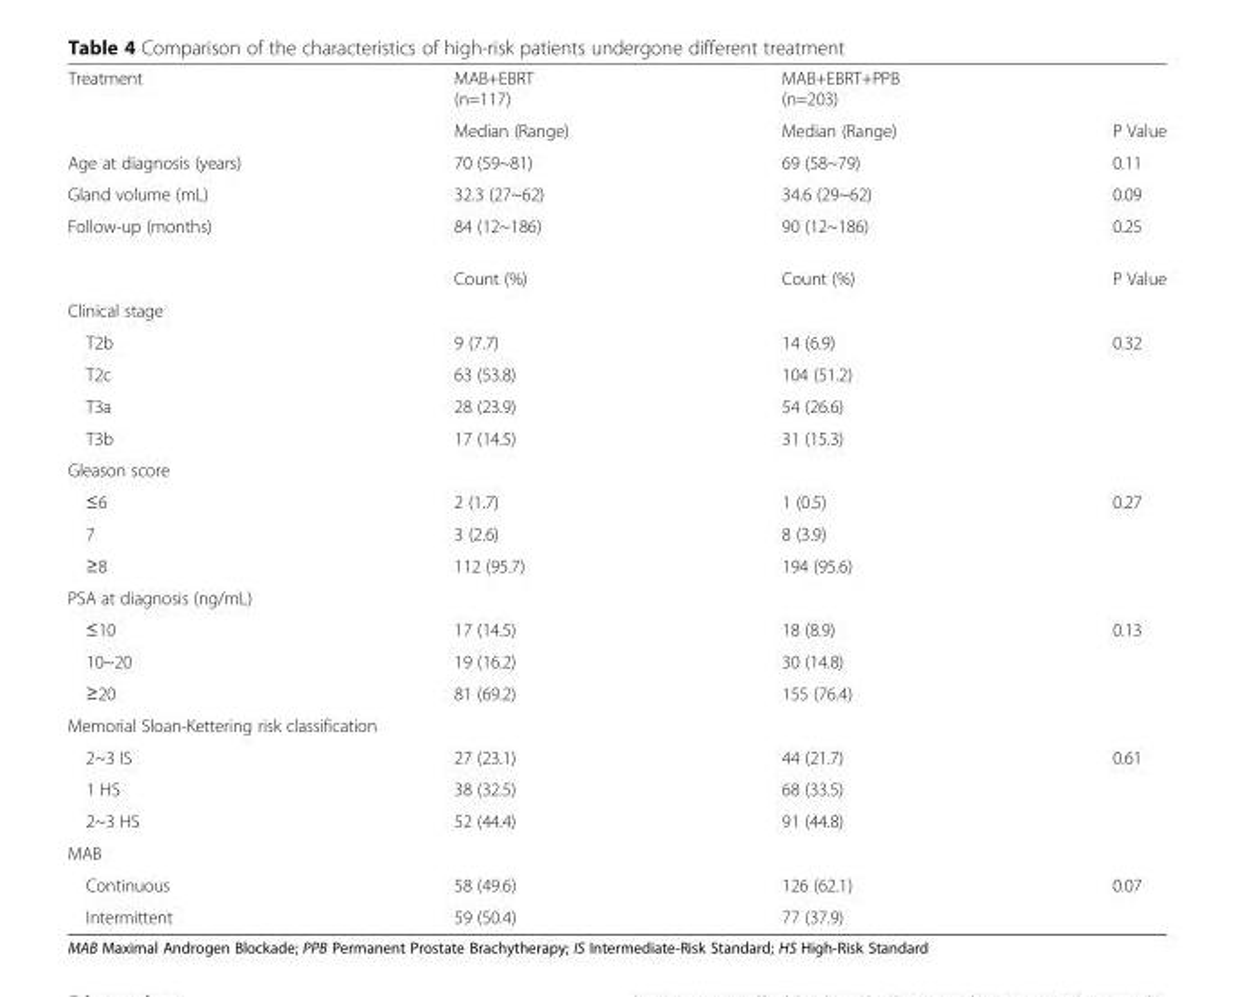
<table><tbody><tr><td rowspan="2">Treatment</td><td>MAB+EBRT (n=117)</td><td>MAB+EBRT+PPB (n=203)</td><td></td></tr><tr><td>Median (Range)</td><td>Median (Range)</td><td>P Value</td></tr><tr><td>Age at diagnosis (years)</td><td>70 (59~81)</td><td>69 (58~79)</td><td>0.11</td></tr><tr><td>Gland volume (mL)</td><td>32.3 (27~62)</td><td>34.6 (29~62)</td><td>0.09</td></tr><tr><td rowspan="2">Follow-up (months)</td><td>84 (12~186)</td><td>90 (12~186)</td><td>0.25</td></tr><tr><td>Count (%)</td><td>Count (%)</td><td>P Value</td></tr><tr><td colspan="4">Clinical stage</td></tr><tr><td>T2b</td><td>9 (7.7)</td><td>14 (6.9)</td><td rowspan="4">0.32</td></tr><tr><td>T2c</td><td>63 (53.8)</td><td>104 (51.2)</td></tr><tr><td>T3a</td><td>28 (23.9)</td><td>54 (26.6)</td></tr><tr><td>T3b</td><td>17 (14.5)</td><td>31 (15.3)</td></tr><tr><td colspan="4">Gleason score</td></tr><tr><td>≤6</td><td>2 (1.7)</td><td>1 (0.5)</td><td rowspan="3">0.27</td></tr><tr><td>7</td><td>3 (2.6)</td><td>8 (3.9)</td></tr><tr><td>≥8</td><td>112 (95.7)</td><td>194 (95.6)</td></tr><tr><td colspan="4">PSA at diagnosis (ng/mL)</td></tr><tr><td>≤10</td><td>17 (14.5)</td><td>18 (8.9)</td><td rowspan="3">0.13</td></tr><tr><td>10~20</td><td>19 (16.2)</td><td>30 (14.8)</td></tr><tr><td>≥20</td><td>81 (69.2)</td><td>155 (76.4)</td></tr><tr><td colspan="4">Memorial Sloan-Kettering risk classification</td></tr><tr><td>2~3 IS</td><td>27 (23.1)</td><td>44 (21.7)</td><td rowspan="3">0.61</td></tr><tr><td>1 HS</td><td>38 (32.5)</td><td>68 (33.5)</td></tr><tr><td>2~3 HS</td><td>52 (44.4)</td><td>91 (44.8)</td></tr><tr><td colspan="4">MAB</td></tr><tr><td>Continuous</td><td>58 (49.6)</td><td>126 (62.1)</td><td rowspan="2">0.07</td></tr><tr><td>Intermittent</td><td>59 (50.4)</td><td>77 (37.9)</td></tr></tbody></table>